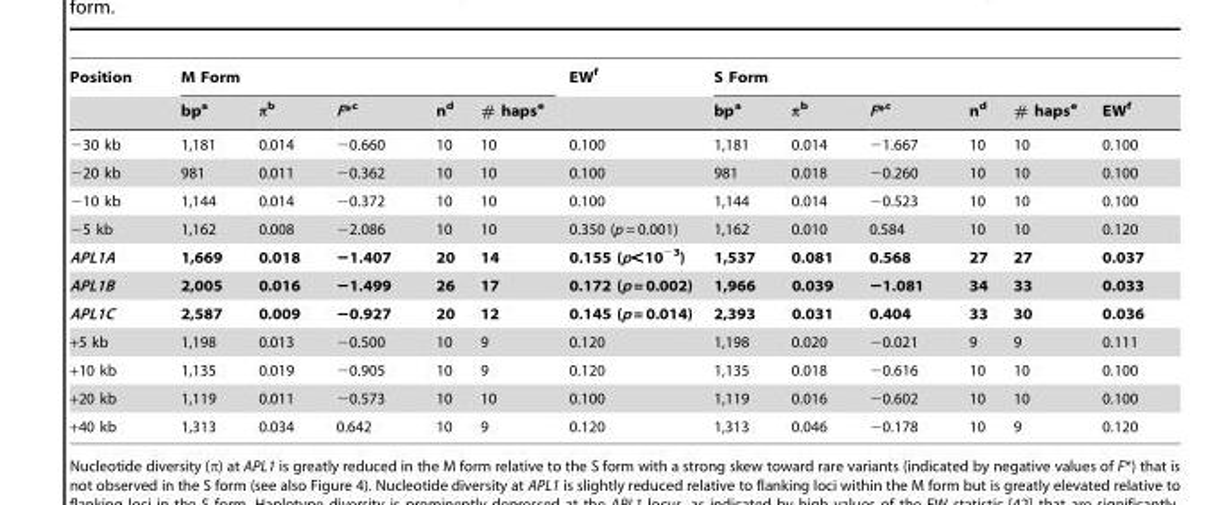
<table><thead><tr><td rowspan="2">Position</td><td colspan="5">M Form</td><td rowspan="2">EW<sup>f</sup></td><td colspan="6">S Form</td></tr><tr><td>bp<sup>a</sup></td><td>π<sup>b</sup></td><td>F*<sup>c</sup></td><td>n<sup>d</sup></td><td># haps<sup>e</sup></td><td>bp<sup>a</sup></td><td>π<sup>b</sup></td><td>F*<sup>c</sup></td><td>n<sup>d</sup></td><td># haps<sup>e</sup></td><td>EW<sup>f</sup></td></tr></thead><tbody><tr><td>−30 kb</td><td>1,181</td><td>0.014</td><td>−0.660</td><td>10</td><td>10</td><td>0.100</td><td>1,181</td><td>0.014</td><td>−1.667</td><td>10</td><td>10</td><td>0.100</td></tr><tr><td>−20 kb</td><td>981</td><td>0.011</td><td>−0.362</td><td>10</td><td>10</td><td>0.100</td><td>981</td><td>0.018</td><td>−0.260</td><td>10</td><td>10</td><td>0.100</td></tr><tr><td>−10 kb</td><td>1,144</td><td>0.014</td><td>−0.372</td><td>10</td><td>10</td><td>0.100</td><td>1,144</td><td>0.014</td><td>−0.523</td><td>10</td><td>10</td><td>0.100</td></tr><tr><td>−5 kb</td><td>1,162</td><td>0.008</td><td>−2.086</td><td>10</td><td>10</td><td>0.350 (p = 0.001)</td><td>1,162</td><td>0.010</td><td>0.584</td><td>10</td><td>10</td><td>0.120</td></tr><tr><td>APL1A</td><td>1,669</td><td>0.018</td><td>−1.407</td><td>20</td><td>14</td><td>0.155 (p&lt;10<sup>−3</sup>)</td><td>1,537</td><td>0.081</td><td>0.568</td><td>27</td><td>27</td><td>0.037</td></tr><tr><td>APL1B</td><td>2,005</td><td>0.016</td><td>−1.499</td><td>26</td><td>17</td><td>0.172 (p = 0.002)</td><td>1,966</td><td>0.039</td><td>−1.081</td><td>34</td><td>33</td><td>0.033</td></tr><tr><td>APL1C</td><td>2,587</td><td>0.009</td><td>−0.927</td><td>20</td><td>12</td><td>0.145 (p = 0.014)</td><td>2,393</td><td>0.031</td><td>0.404</td><td>33</td><td>30</td><td>0.036</td></tr><tr><td>+5 kb</td><td>1,198</td><td>0.013</td><td>−0.500</td><td>10</td><td>9</td><td>0.120</td><td>1,198</td><td>0.020</td><td>−0.021</td><td>9</td><td>9</td><td>0.111</td></tr><tr><td>+10 kb</td><td>1,135</td><td>0.019</td><td>−0.905</td><td>10</td><td>9</td><td>0.120</td><td>1,135</td><td>0.018</td><td>−0.616</td><td>10</td><td>10</td><td>0.100</td></tr><tr><td>+20 kb</td><td>1,119</td><td>0.011</td><td>−0.573</td><td>10</td><td>10</td><td>0.100</td><td>1,119</td><td>0.016</td><td>−0.602</td><td>10</td><td>10</td><td>0.100</td></tr><tr><td>+40 kb</td><td>1,313</td><td>0.034</td><td>0.642</td><td>10</td><td>9</td><td>0.120</td><td>1,313</td><td>0.046</td><td>−0.178</td><td>10</td><td>9</td><td>0.120</td></tr></tbody></table>